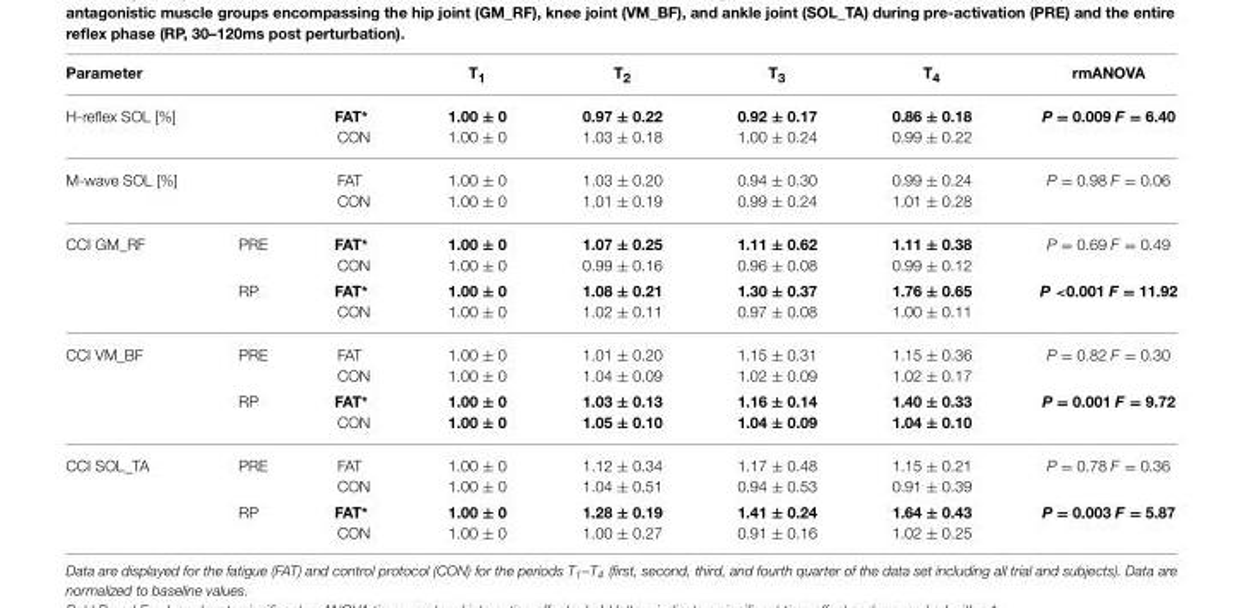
<table><thead><tr><td>Parameter</td><td></td><td></td><td>T<sub>1</sub></td><td>T<sub>2</sub></td><td>T<sub>3</sub></td><td>T<sub>4</sub></td><td>rmANOVA</td></tr></thead><tbody><tr><td>H-reflex SOL [%]</td><td></td><td>FAT* CON</td><td>1.00 ± 0 1.00 ± 0</td><td>0.97 ± 0.22 1.03 ± 0.18</td><td>0.92 ± 0.17 1.00 ± 0.24</td><td>0.86 ± 0.18 0.99 ± 0.22</td><td>P = 0.009 F = 6.40</td></tr><tr><td>M-wave SOL [%]</td><td></td><td>FAT CON</td><td>1.00 ± 0 1.00 ± 0</td><td>1.03 ± 0.20 1.01 ± 0.19</td><td>0.94 ± 0.30 0.99 ± 0.24</td><td>0.99 ± 0.24 1.01 ± 0.28</td><td>P = 0.98 F = 0.06</td></tr><tr><td rowspan="2">CCI GM_RF</td><td>PRE</td><td>FAT* CON</td><td>1.00 ± 0 1.00 ± 0</td><td>1.07 ± 0.25 0.99 ± 0.16</td><td>1.11 ± 0.62 0.96 ± 0.08</td><td>1.11 ± 0.38 0.99 ± 0.12</td><td>P = 0.69 F = 0.49</td></tr><tr><td>RP</td><td>FAT* CON</td><td>1.00 ± 0 1.00 ± 0</td><td>1.08 ± 0.21 1.02 ± 0.11</td><td>1.30 ± 0.37 0.97 ± 0.08</td><td>1.76 ± 0.65 1.00 ± 0.11</td><td>P &lt;0.001 F = 11.92</td></tr><tr><td rowspan="2">CCI VM_BF</td><td>PRE</td><td>FAT CON</td><td>1.00 ± 0 1.00 ± 0</td><td>1.01 ± 0.20 1.04 ± 0.09</td><td>1.15 ± 0.31 1.02 ± 0.09</td><td>1.15 ± 0.36 1.02 ± 0.17</td><td>P = 0.82 F = 0.30</td></tr><tr><td>RP</td><td>FAT* CON</td><td>1.00 ± 0 1.00 ± 0</td><td>1.03 ± 0.13 1.05 ± 0.10</td><td>1.16 ± 0.14 1.04 ± 0.09</td><td>1.40 ± 0.33 1.04 ± 0.10</td><td>P = 0.001 F = 9.72</td></tr><tr><td rowspan="2">CCI SOL_TA</td><td>PRE</td><td>FAT CON</td><td>1.00 ± 0 1.00 ± 0</td><td>1.12 ± 0.34 1.04 ± 0.51</td><td>1.17 ± 0.48 0.94 ± 0.53</td><td>1.15 ± 0.21 0.91 ± 0.39</td><td>P = 0.78 F = 0.36</td></tr><tr><td>RP</td><td>FAT* CON</td><td>1.00 ± 0 1.00 ± 0</td><td>1.28 ± 0.19 1.00 ± 0.27</td><td>1.41 ± 0.24 0.91 ± 0.16</td><td>1.64 ± 0.43 1.02 ± 0.25</td><td>P = 0.003 F = 5.87</td></tr></tbody></table>